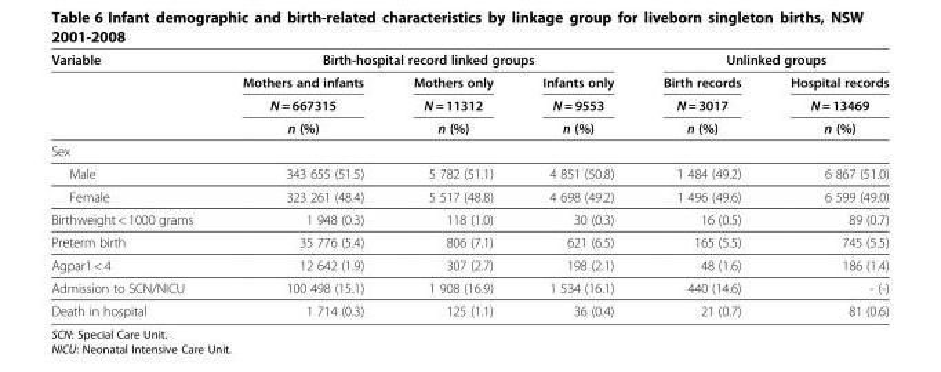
<table><thead><tr><td rowspan="4">Variable</td><td colspan="3">Birth-hospital record linked groups</td><td colspan="2">Unlinked groups</td></tr><tr><td rowspan="3">Mothers and infants N = 667315 n (%)</td><td rowspan="3">Mothers only N = 11312 n (%)</td><td rowspan="3">Infants only N = 9553 n (%)</td><td rowspan="3">Birth records N = 3017 n (%)</td><td rowspan="3">Hospital records N = 13469 n (%)</td></tr><tr></tr><tr></tr></thead><tbody><tr><td colspan="6">Sex</td></tr><tr><td>Male</td><td>343 655 (51.5)</td><td>5 782 (51.1)</td><td>4 851 (50.8)</td><td>1 484 (49.2)</td><td>6 867 (51.0)</td></tr><tr><td>Female</td><td>323 261 (48.4)</td><td>5 517 (48.8)</td><td>4 698 (49.2)</td><td>1 496 (49.6)</td><td>6 599 (49.0)</td></tr><tr><td>Birthweight &lt; 1000 grams</td><td>1 948 (0.3)</td><td>118 (1.0)</td><td>30 (0.3)</td><td>16 (0.5)</td><td>89 (0.7)</td></tr><tr><td>Preterm birth</td><td>35 776 (5.4)</td><td>806 (7.1)</td><td>621 (6.5)</td><td>165 (5.5)</td><td>745 (5.5)</td></tr><tr><td>Agpar1 &lt; 4</td><td>12 642 (1.9)</td><td>307 (2.7)</td><td>198 (2.1)</td><td>48 (1.6)</td><td>186 (1.4)</td></tr><tr><td>Admission to SCN/NICU</td><td>100 498 (15.1)</td><td>1 908 (16.9)</td><td>1 534 (16.1)</td><td>440 (14.6)</td><td>- (-)</td></tr><tr><td>Death in hospital</td><td>1 714 (0.3)</td><td>125 (1.1)</td><td>36 (0.4)</td><td>21 (0.7)</td><td>81 (0.6)</td></tr></tbody></table>